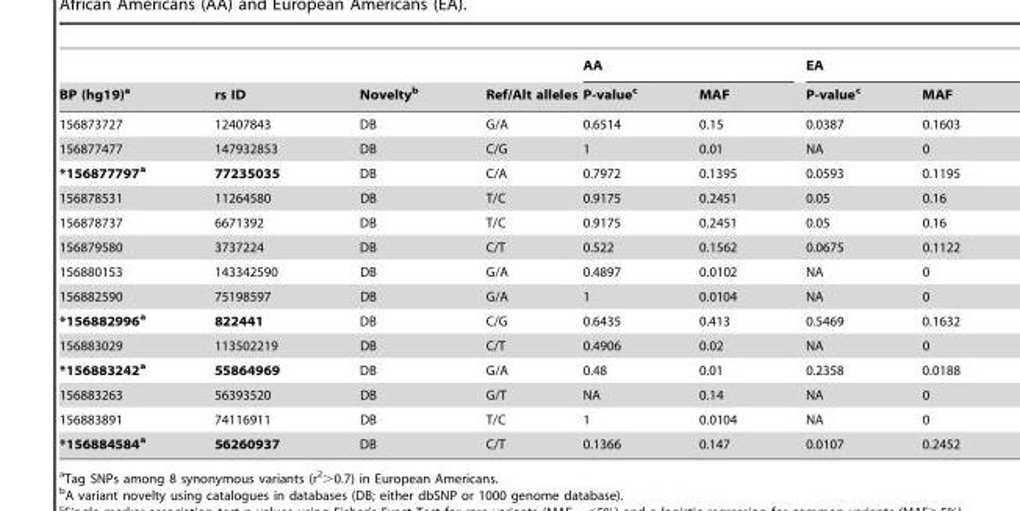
<table><thead><tr><td rowspan="2">BP (hg19)<sup>a</sup></td><td rowspan="2">rs ID</td><td rowspan="2">Novelty<sup>b</sup></td><td rowspan="2">Ref/Alt alleles</td><td colspan="2">AA</td><td colspan="2">EA</td></tr><tr><td>P-value<sup>c</sup></td><td>MAF</td><td>P-value<sup>c</sup></td><td>MAF</td></tr></thead><tbody><tr><td>156873727</td><td>12407843</td><td>DB</td><td>G/A</td><td>0.6514</td><td>0.15</td><td>0.0387</td><td>0.1603</td></tr><tr><td>156877477</td><td>147932853</td><td>DB</td><td>C/G</td><td>1</td><td>0.01</td><td>NA</td><td>0</td></tr><tr><td>*156877797a</td><td>77235035</td><td>DB</td><td>C/A</td><td>0.7972</td><td>0.1395</td><td>0.0593</td><td>0.1195</td></tr><tr><td>156878531</td><td>11264580</td><td>DB</td><td>T/C</td><td>0.9175</td><td>0.2451</td><td>0.05</td><td>0.16</td></tr><tr><td>156878737</td><td>6671392</td><td>DB</td><td>T/C</td><td>0.9175</td><td>0.2451</td><td>0.05</td><td>0.16</td></tr><tr><td>156879580</td><td>3737224</td><td>DB</td><td>C/T</td><td>0.522</td><td>0.1562</td><td>0.0675</td><td>0.1122</td></tr><tr><td>156880153</td><td>143342590</td><td>DB</td><td>G/A</td><td>0.4897</td><td>0.0102</td><td>NA</td><td>0</td></tr><tr><td>156882590</td><td>75198597</td><td>DB</td><td>G/A</td><td>1</td><td>0.0104</td><td>NA</td><td>0</td></tr><tr><td>*156882996a</td><td>822441</td><td>DB</td><td>C/G</td><td>0.6435</td><td>0.413</td><td>0.5469</td><td>0.1632</td></tr><tr><td>156883029</td><td>113502219</td><td>DB</td><td>C/T</td><td>0.4906</td><td>0.02</td><td>NA</td><td>0</td></tr><tr><td>*156883242a</td><td>55864969</td><td>DB</td><td>G/A</td><td>0.48</td><td>0.01</td><td>0.2358</td><td>0.0188</td></tr><tr><td>156883263</td><td>56393520</td><td>DB</td><td>G/T</td><td>NA</td><td>0.14</td><td>NA</td><td>0</td></tr><tr><td>156883891</td><td>74116911</td><td>DB</td><td>T/C</td><td>1</td><td>0.0104</td><td>NA</td><td>0</td></tr><tr><td>*156884584a</td><td>56260937</td><td>DB</td><td>C/T</td><td>0.1366</td><td>0.147</td><td>0.0107</td><td>0.2452</td></tr></tbody></table>